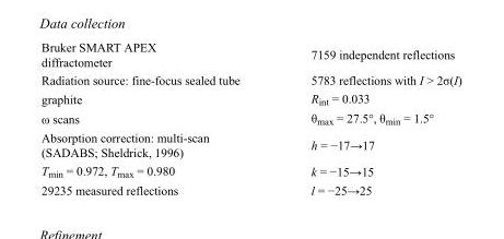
<table><tbody><tr><td>Bruker SMART APEX diffractometer</td><td>7159 independent reflections</td></tr><tr><td>Radiation source: fine-focus sealed tube</td><td>5783 reflections with I &gt; 2σ(I)</td></tr><tr><td>graphite</td><td>R<sub>int</sub> = 0.033</td></tr><tr><td>ω scans</td><td>θ<sub>max</sub> = 27.5°, θ<sub>min</sub> = 1.5°</td></tr><tr><td>Absorption correction: multi-scan (SADABS; Sheldrick, 1996)</td><td>h = −17→17</td></tr><tr><td>T<sub>min</sub> = 0.972, T<sub>max</sub> = 0.980</td><td>k = −15→15</td></tr><tr><td>29235 measured reflections</td><td>l = −25→25</td></tr></tbody></table>